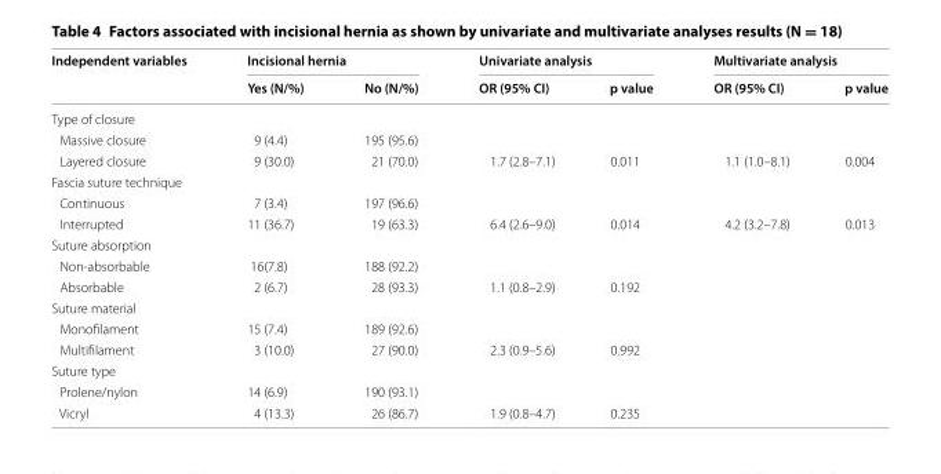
<table><thead><tr><td rowspan="2">Independent variables</td><td colspan="2">Incisional hernia</td><td colspan="2">Univariate analysis</td><td colspan="2">Multivariate analysis</td></tr><tr><td>Yes (N/%)</td><td>No (N/%)</td><td>OR (95% CI)</td><td>p value</td><td>OR (95% CI)</td><td>p value</td></tr></thead><tbody><tr><td colspan="7">Type of closure</td></tr><tr><td>Massive closure</td><td>9 (4.4)</td><td>195 (95.6)</td><td></td><td></td><td></td><td></td></tr><tr><td>Layered closure</td><td>9 (30.0)</td><td>21 (70.0)</td><td>1.7 (2.8–7.1)</td><td>0.011</td><td>1.1 (1.0–8.1)</td><td>0.004</td></tr><tr><td colspan="7">Fascia suture technique</td></tr><tr><td>Continuous</td><td>7 (3.4)</td><td>197 (96.6)</td><td></td><td></td><td></td><td></td></tr><tr><td>Interrupted</td><td>11 (36.7)</td><td>19 (63.3)</td><td>6.4 (2.6–9.0)</td><td>0.014</td><td>4.2 (3.2–7.8)</td><td>0.013</td></tr><tr><td colspan="7">Suture absorption</td></tr><tr><td>Non-absorbable</td><td>16(7.8)</td><td>188 (92.2)</td><td></td><td></td><td></td><td></td></tr><tr><td>Absorbable</td><td>2 (6.7)</td><td>28 (93.3)</td><td>1.1 (0.8–2.9)</td><td>0.192</td><td></td><td></td></tr><tr><td colspan="7">Suture material</td></tr><tr><td>Monofilament</td><td>15 (7.4)</td><td>189 (92.6)</td><td></td><td></td><td></td><td></td></tr><tr><td>Multifilament</td><td>3 (10.0)</td><td>27 (90.0)</td><td>2.3 (0.9–5.6)</td><td>0.992</td><td></td><td></td></tr><tr><td colspan="7">Suture type</td></tr><tr><td>Prolene/nylon</td><td>14 (6.9)</td><td>190 (93.1)</td><td></td><td></td><td></td><td></td></tr><tr><td>Vicryl</td><td>4 (13.3)</td><td>26 (86.7)</td><td>1.9 (0.8–4.7)</td><td>0.235</td><td></td><td></td></tr></tbody></table>